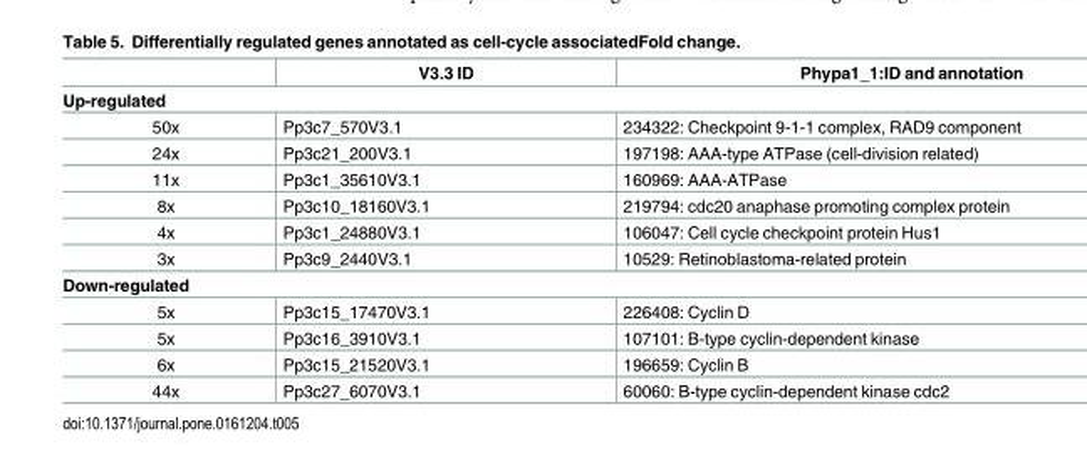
<table><thead><tr><td></td><td>V3.3 ID</td><td>Phypa1_1:ID and annotation</td></tr></thead><tbody><tr><td colspan="3">Up-regulated</td></tr><tr><td>50x</td><td>Pp3c7_570V3.1</td><td>234322: Checkpoint 9-1-1 complex, RAD9 component</td></tr><tr><td>24x</td><td>Pp3c21_200V3.1</td><td>197198: AAA-type ATPase (cell-division related)</td></tr><tr><td>11x</td><td>Pp3c1_35610V3.1</td><td>160969: AAA-ATPase</td></tr><tr><td>8x</td><td>Pp3c10_18160V3.1</td><td>219794: cdc20 anaphase promoting complex protein</td></tr><tr><td>4x</td><td>Pp3c1_24880V3.1</td><td>106047: Cell cycle checkpoint protein Hus1</td></tr><tr><td>3x</td><td>Pp3c9_2440V3.1</td><td>10529: Retinoblastoma-related protein</td></tr><tr><td colspan="3">Down-regulated</td></tr><tr><td>5x</td><td>Pp3c15_17470V3.1</td><td>226408: Cyclin D</td></tr><tr><td>5x</td><td>Pp3c16_3910V3.1</td><td>107101: B-type cyclin-dependent kinase</td></tr><tr><td>6x</td><td>Pp3c15_21520V3.1</td><td>196659: Cyclin B</td></tr><tr><td>44x</td><td>Pp3c27_6070V3.1</td><td>60060: B-type cyclin-dependent kinase cdc2</td></tr></tbody></table>